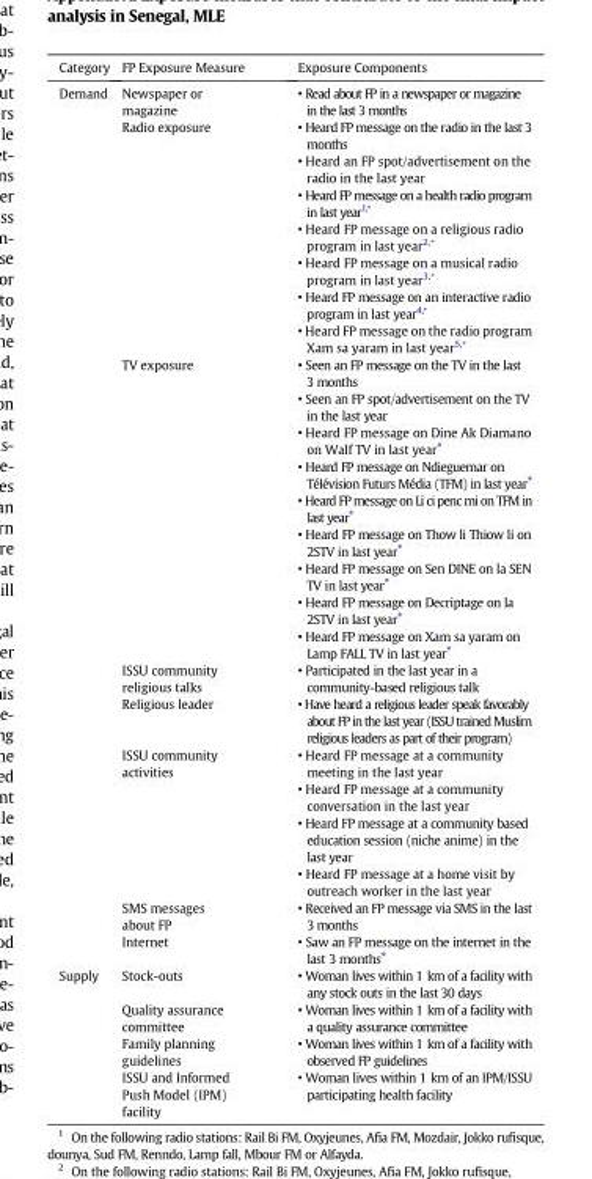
<table><thead><tr><td>Category</td><td>FP Exposure Measure</td><td>Exposure Components</td></tr></thead><tbody><tr><td rowspan="25">Demand</td><td>Newspaper or magazine</td><td>• Read about FP in a newspaper or magazine in the last 3 months</td></tr><tr><td rowspan="7">Radio exposure</td><td>• Heard FP message on the radio in the last 3 months</td></tr><tr><td>• Heard an FP spot/advertisement on the radio in the last year</td></tr><tr><td>• Heard FP message on a health radio program in last year1,⁎</td></tr><tr><td>• Heard FP message on a religious radio program in last year2,⁎</td></tr><tr><td>• Heard FP message on a musical radio program in last year3,⁎</td></tr><tr><td>• Heard FP message on an interactive radio program in last year4,⁎</td></tr><tr><td>• Heard FP message on the radio program Xam sa yaram in last year5,⁎</td></tr><tr><td rowspan="9">TV exposure</td><td>• Seen an FP message on the TV in the last 3 months</td></tr><tr><td>• Seen an FP spot/advertisement on the TV in the last year</td></tr><tr><td>• Heard FP message on Dine Ak Diamano on Walf TV in last year⁎</td></tr><tr><td>• Heard FP message on Ndieguemar on Télévision Futurs Média (TFM) in last year⁎</td></tr><tr><td>• Heard FP message on Li ci penc mi on TFM in last year⁎</td></tr><tr><td>• Heard FP message on Thow li Thiow li on 2STV in last year⁎</td></tr><tr><td>• Heard FP message on Sen DINE on la SEN TV in last year⁎</td></tr><tr><td>• Heard FP message on Decriptage on la 2STV in last year⁎</td></tr><tr><td>• Heard FP message on Xam sa yaram on Lamp FALL TV in last year⁎</td></tr><tr><td>ISSU community religious talks</td><td>• Participated in the last year in a community-based religious talk</td></tr><tr><td>Religious leader</td><td>• Have heard a religious leader speak favorably about FP in the last year (ISSU trained Muslim religious leaders as part of their program)</td></tr><tr><td rowspan="4">ISSU community activities</td><td>• Heard FP message at a community meeting in the last year</td></tr><tr><td>• Heard FP message at a community conversation in the last year</td></tr><tr><td>• Heard FP message at a community based education session (niche anime) in the last year</td></tr><tr><td>• Heard FP message at a home visit by outreach worker in the last year</td></tr><tr><td>SMS messages about FP</td><td>• Received an FP message via SMS in the last 3 months</td></tr><tr><td>Internet</td><td>• Saw an FP message on the internet in the last 3 months⁎</td></tr><tr><td rowspan="4">Supply</td><td>Stock-outs</td><td>• Woman lives within 1 km of a facility with any stock outs in the last 30 days</td></tr><tr><td>Quality assurance committee</td><td>• Woman lives within 1 km of a facility with a quality assurance committee</td></tr><tr><td>Family planning guidelines</td><td>• Woman lives within 1 km of a facility with observed FP guidelines</td></tr><tr><td>ISSU and Informed Push Model (IPM) facility</td><td>• Woman lives within 1 km of an IPM/ISSU participating health facility</td></tr></tbody></table>